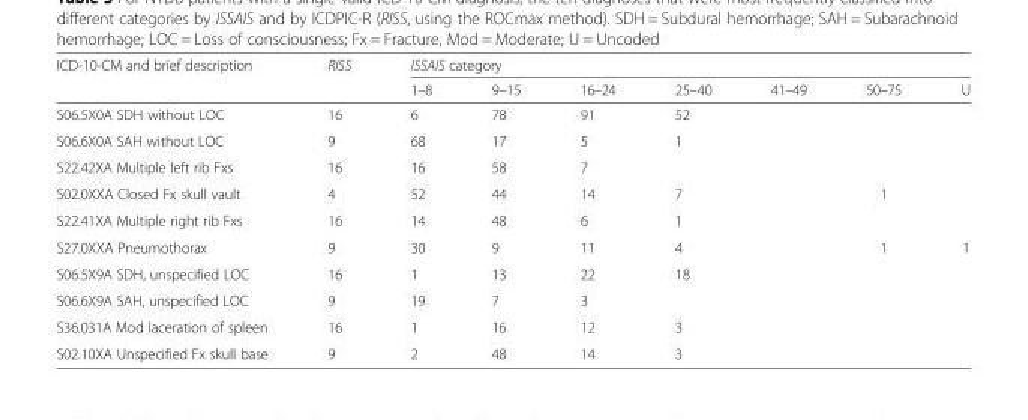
<table><thead><tr><td rowspan="2">ICD-10-CM and brief description</td><td rowspan="2">RISS</td><td colspan="7">ISSAIS category</td></tr><tr><td>1–8</td><td>9–15</td><td>16–24</td><td>25–40</td><td>41–49</td><td>50–75</td><td>U</td></tr></thead><tbody><tr><td>S06.5X0A SDH without LOC</td><td>16</td><td>6</td><td>78</td><td>91</td><td>52</td><td></td><td></td><td></td></tr><tr><td>S06.6X0A SAH without LOC</td><td>9</td><td>68</td><td>17</td><td>5</td><td>1</td><td></td><td></td><td></td></tr><tr><td>S22.42XA Multiple left rib Fxs</td><td>16</td><td>16</td><td>58</td><td>7</td><td></td><td></td><td></td><td></td></tr><tr><td>S02.0XXA Closed Fx skull vault</td><td>4</td><td>52</td><td>44</td><td>14</td><td>7</td><td></td><td>1</td><td></td></tr><tr><td>S22.41XA Multiple right rib Fxs</td><td>16</td><td>14</td><td>48</td><td>6</td><td>1</td><td></td><td></td><td></td></tr><tr><td>S27.0XXA Pneumothorax</td><td>9</td><td>30</td><td>9</td><td>11</td><td>4</td><td></td><td>1</td><td>1</td></tr><tr><td>S06.5X9A SDH, unspecified LOC</td><td>16</td><td>1</td><td>13</td><td>22</td><td>18</td><td></td><td></td><td></td></tr><tr><td>S06.6X9A SAH, unspecified LOC</td><td>9</td><td>19</td><td>7</td><td>3</td><td></td><td></td><td></td><td></td></tr><tr><td>S36.031A Mod laceration of spleen</td><td>16</td><td>1</td><td>16</td><td>12</td><td>3</td><td></td><td></td><td></td></tr><tr><td>S02.10XA Unspecified Fx skull base</td><td>9</td><td>2</td><td>48</td><td>14</td><td>3</td><td></td><td></td><td></td></tr></tbody></table>